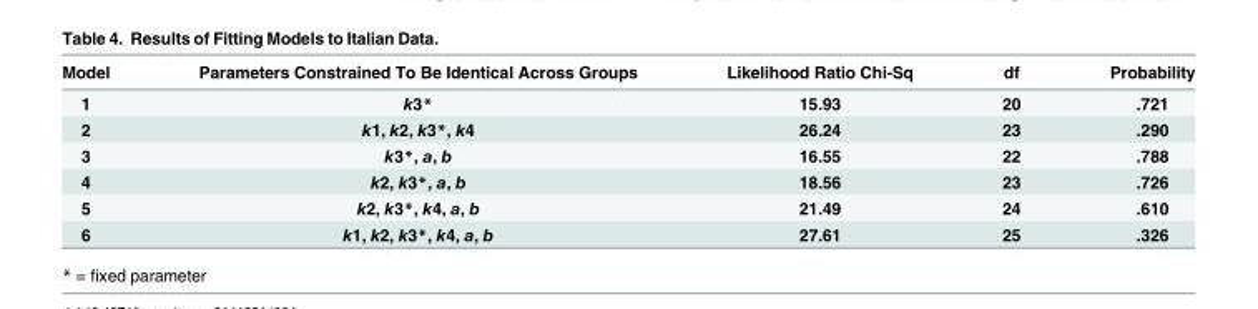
<table><thead><tr><td>Model</td><td>Parameters Constrained To Be Identical Across Groups</td><td>Likelihood Ratio Chi-Sq</td><td>df</td><td>Probability</td></tr></thead><tbody><tr><td>1</td><td>k3*</td><td>15.93</td><td>20</td><td>.721</td></tr><tr><td>2</td><td>k1, k2, k3*, k4</td><td>26.24</td><td>23</td><td>.290</td></tr><tr><td>3</td><td>k3*, a, b</td><td>16.55</td><td>22</td><td>.788</td></tr><tr><td>4</td><td>k2, k3*, a, b</td><td>18.56</td><td>23</td><td>.726</td></tr><tr><td>5</td><td>k2, k3*, k4, a, b</td><td>21.49</td><td>24</td><td>.610</td></tr><tr><td>6</td><td>k1, k2, k3*, k4, a, b</td><td>27.61</td><td>25</td><td>.326</td></tr></tbody></table>